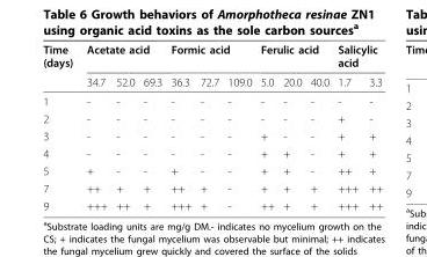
<table><thead><tr><td rowspan="2">Time (days)</td><td colspan="3">Acetate acid</td><td colspan="3">Formic acid</td><td colspan="3">Ferulic acid</td><td colspan="2">Salicylic acid</td></tr><tr><td>34.7</td><td>52.0</td><td>69.3</td><td>36.3</td><td>72.7</td><td>109.0</td><td>5.0</td><td>20.0</td><td>40.0</td><td>1.7</td><td>3.3</td></tr></thead><tbody><tr><td>1</td><td>-</td><td>-</td><td>-</td><td>-</td><td>-</td><td>-</td><td>-</td><td>-</td><td>-</td><td>-</td><td>-</td></tr><tr><td>2</td><td>-</td><td>-</td><td>-</td><td>-</td><td>-</td><td>-</td><td>-</td><td>-</td><td>-</td><td>+</td><td>-</td></tr><tr><td>3</td><td>-</td><td>-</td><td>-</td><td>-</td><td>-</td><td>-</td><td>+</td><td>-</td><td>-</td><td>+</td><td>+</td></tr><tr><td>4</td><td>-</td><td>-</td><td>-</td><td>-</td><td>-</td><td>-</td><td>+</td><td>+</td><td>-</td><td>+</td><td>+</td></tr><tr><td>5</td><td>+</td><td>-</td><td>-</td><td>+</td><td>-</td><td>-</td><td>+</td><td>+</td><td>-</td><td>++</td><td>+</td></tr><tr><td>7</td><td>++</td><td>+</td><td>+</td><td>++</td><td>+</td><td>-</td><td>+</td><td>+</td><td>+</td><td>+++</td><td>++</td></tr><tr><td>9</td><td>+++</td><td>++</td><td>+</td><td>+++</td><td>+</td><td>-</td><td>++</td><td>+</td><td>+</td><td>+++</td><td>++</td></tr></tbody></table>